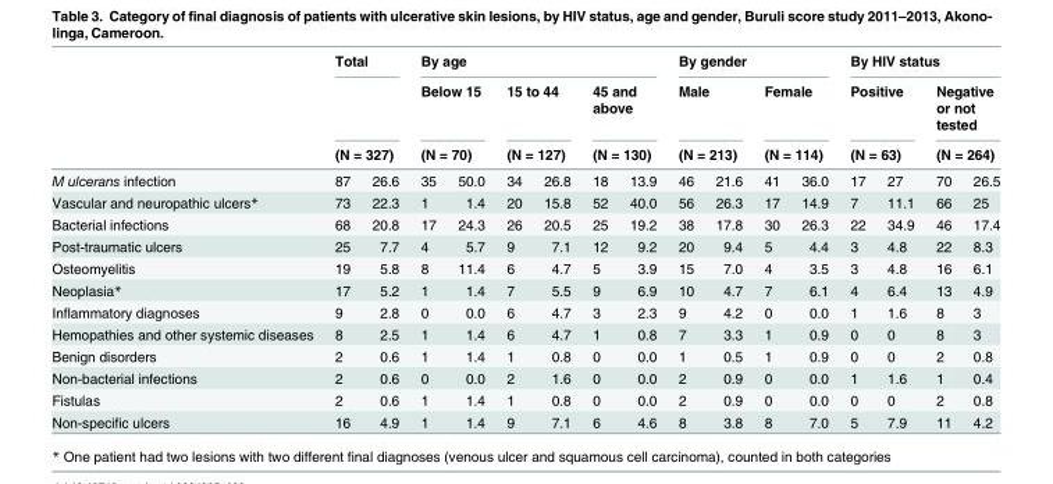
<table><thead><tr><td rowspan="4">M ulcerans infection</td><td colspan="2">Total</td><td colspan="6">By age</td><td colspan="4">By gender</td><td colspan="4">By HIV status</td></tr><tr><td></td><td></td><td rowspan="2" colspan="2">Below 15 (N = 70)</td><td rowspan="2" colspan="2">15 to 44 (N = 127)</td><td rowspan="2" colspan="2">45 and above (N = 130)</td><td rowspan="2" colspan="2">Male (N = 213)</td><td rowspan="2" colspan="2">Female (N = 114)</td><td rowspan="2" colspan="2">Positive (N = 63)</td><td rowspan="2" colspan="2">Negative or not tested (N = 264)</td></tr><tr><td colspan="2">(N = 327)</td></tr><tr><td>87</td><td>26.6</td><td>35</td><td>50.0</td><td>34</td><td>26.8</td><td>18</td><td>13.9</td><td>46</td><td>21.6</td><td>41</td><td>36.0</td><td>17</td><td>27</td><td>70</td><td>26.5</td></tr></thead><tbody><tr><td>Vascular and neuropathic ulcers*</td><td>73</td><td>22.3</td><td>1</td><td>1.4</td><td>20</td><td>15.8</td><td>52</td><td>40.0</td><td>56</td><td>26.3</td><td>17</td><td>14.9</td><td>7</td><td>11.1</td><td>66</td><td>25</td></tr><tr><td>Bacterial infections</td><td>68</td><td>20.8</td><td>17</td><td>24.3</td><td>26</td><td>20.5</td><td>25</td><td>19.2</td><td>38</td><td>17.8</td><td>30</td><td>26.3</td><td>22</td><td>34.9</td><td>46</td><td>17.4</td></tr><tr><td>Post-traumatic ulcers</td><td>25</td><td>7.7</td><td>4</td><td>5.7</td><td>9</td><td>7.1</td><td>12</td><td>9.2</td><td>20</td><td>9.4</td><td>5</td><td>4.4</td><td>3</td><td>4.8</td><td>22</td><td>8.3</td></tr><tr><td>Osteomyelitis</td><td>19</td><td>5.8</td><td>8</td><td>11.4</td><td>6</td><td>4.7</td><td>5</td><td>3.9</td><td>15</td><td>7.0</td><td>4</td><td>3.5</td><td>3</td><td>4.8</td><td>16</td><td>6.1</td></tr><tr><td>Neoplasia*</td><td>17</td><td>5.2</td><td>1</td><td>1.4</td><td>7</td><td>5.5</td><td>9</td><td>6.9</td><td>10</td><td>4.7</td><td>7</td><td>6.1</td><td>4</td><td>6.4</td><td>13</td><td>4.9</td></tr><tr><td>Inflammatory diagnoses</td><td>9</td><td>2.8</td><td>0</td><td>0.0</td><td>6</td><td>4.7</td><td>3</td><td>2.3</td><td>9</td><td>4.2</td><td>0</td><td>0.0</td><td>1</td><td>1.6</td><td>8</td><td>3</td></tr><tr><td>Hemopathies and other systemic diseases</td><td>8</td><td>2.5</td><td>1</td><td>1.4</td><td>6</td><td>4.7</td><td>1</td><td>0.8</td><td>7</td><td>3.3</td><td>1</td><td>0.9</td><td>0</td><td>0</td><td>8</td><td>3</td></tr><tr><td>Benign disorders</td><td>2</td><td>0.6</td><td>1</td><td>1.4</td><td>1</td><td>0.8</td><td>0</td><td>0.0</td><td>1</td><td>0.5</td><td>1</td><td>0.9</td><td>0</td><td>0</td><td>2</td><td>0.8</td></tr><tr><td>Non-bacterial infections</td><td>2</td><td>0.6</td><td>0</td><td>0.0</td><td>2</td><td>1.6</td><td>0</td><td>0.0</td><td>2</td><td>0.9</td><td>0</td><td>0.0</td><td>1</td><td>1.6</td><td>1</td><td>0.4</td></tr><tr><td>Fistulas</td><td>2</td><td>0.6</td><td>1</td><td>1.4</td><td>1</td><td>0.8</td><td>0</td><td>0.0</td><td>2</td><td>0.9</td><td>0</td><td>0.0</td><td>0</td><td>0</td><td>2</td><td>0.8</td></tr><tr><td>Non-specific ulcers</td><td>16</td><td>4.9</td><td>1</td><td>1.4</td><td>9</td><td>7.1</td><td>6</td><td>4.6</td><td>8</td><td>3.8</td><td>8</td><td>7.0</td><td>5</td><td>7.9</td><td>11</td><td>4.2</td></tr></tbody></table>